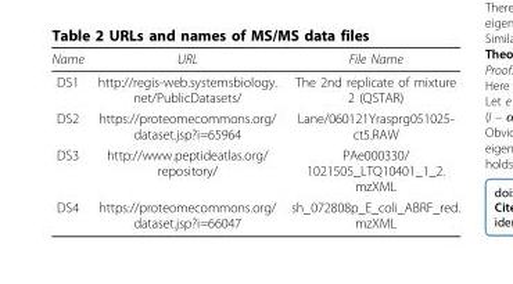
<table><thead><tr><td>Name</td><td>URL</td><td>File Name</td></tr></thead><tbody><tr><td>DS1</td><td>http://regis-web.systemsbiology. net/PublicDatasets/</td><td>The 2nd replicate of mixture 2 (QSTAR)</td></tr><tr><td>DS2</td><td>https://proteomecommons.org/ dataset.jsp?i=65964</td><td>Lane/060121Yrasprg051025- ct5.RAW</td></tr><tr><td>DS3</td><td>http://www.peptideatlas.org/ repository/</td><td>PAe000330/ 1021505_LTQ10401_1_2. mzXML</td></tr><tr><td>DS4</td><td>https://proteomecommons.org/ dataset.jsp?i=66047</td><td>sh_072808p_E_coli_ABRF_red. mzXML</td></tr></tbody></table>